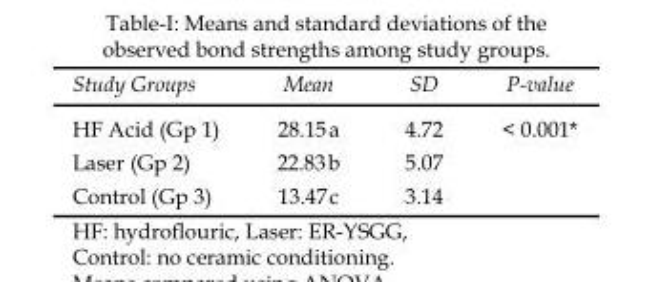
<table><thead><tr><td>Study Groups</td><td>Mean</td><td>SD</td><td>P-value</td></tr></thead><tbody><tr><td>HF Acid (Gp 1)</td><td>28.15a</td><td>4.72</td><td rowspan="3">&lt; 0.001*</td></tr><tr><td>Laser (Gp 2)</td><td>22.83b</td><td>5.07</td></tr><tr><td>Control (Gp 3)</td><td>13.47c</td><td>3.14</td></tr></tbody></table>